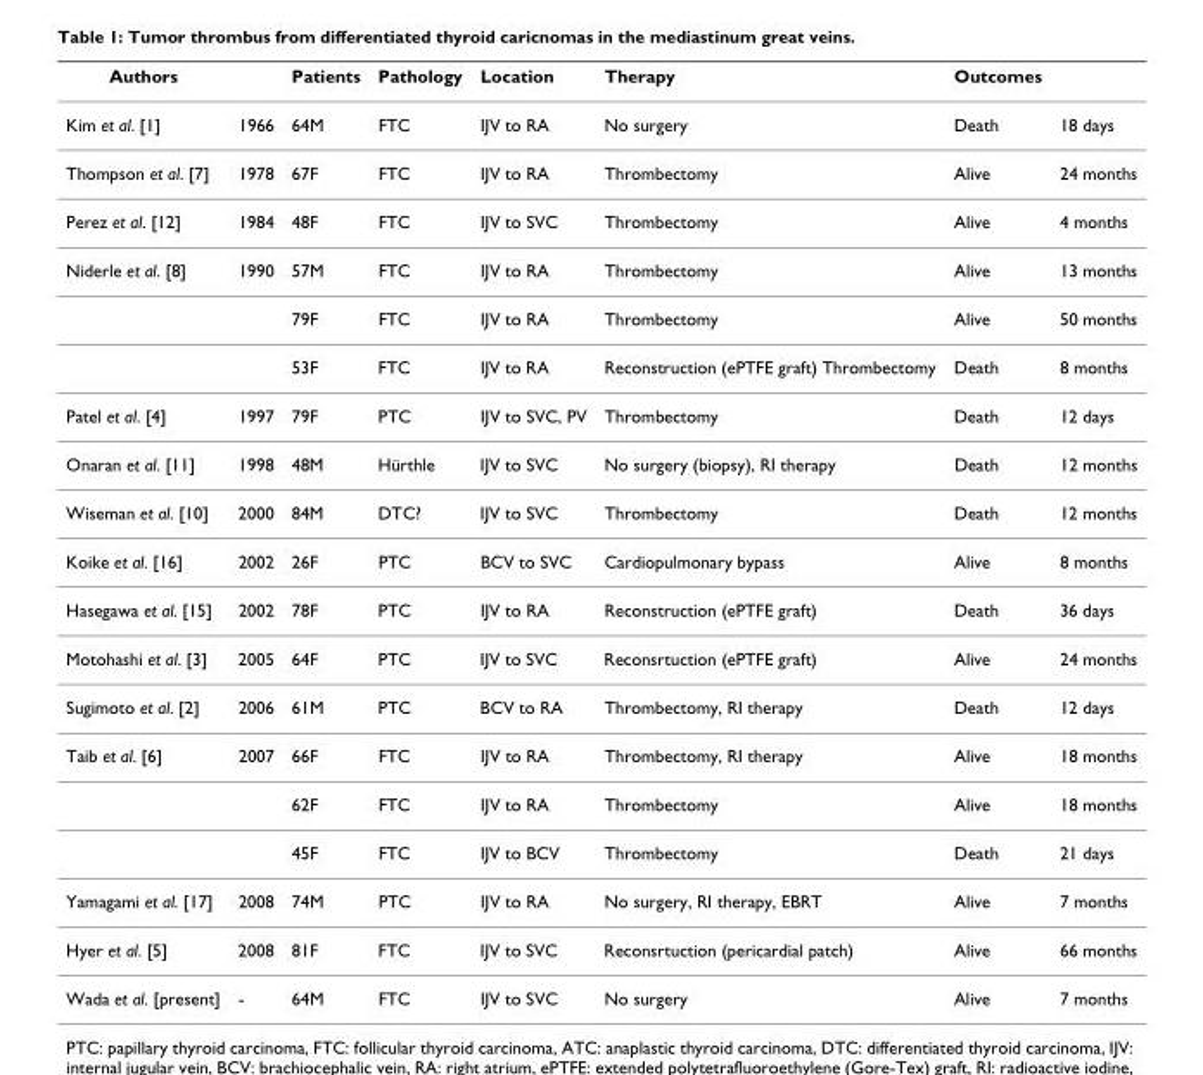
<table><thead><tr><td>Authors</td><td></td><td>Patients</td><td>Pathology</td><td>Location</td><td>Therapy</td><td>Outcomes</td><td></td></tr></thead><tbody><tr><td>Kim et al. [1]</td><td>1966</td><td>64M</td><td>FTC</td><td>IJV to RA</td><td>No surgery</td><td>Death</td><td>18 days</td></tr><tr><td>Thompson et al. [7]</td><td>1978</td><td>67F</td><td>FTC</td><td>IJV to RA</td><td>Thrombectomy</td><td>Alive</td><td>24 months</td></tr><tr><td>Perez et al. [12]</td><td>1984</td><td>48F</td><td>FTC</td><td>IJV to SVC</td><td>Thrombectomy</td><td>Alive</td><td>4 months</td></tr><tr><td rowspan="3">Niderle et al. [8]</td><td>1990</td><td>57M</td><td>FTC</td><td>IJV to RA</td><td>Thrombectomy</td><td>Alive</td><td>13 months</td></tr><tr><td></td><td>79F</td><td>FTC</td><td>IJV to RA</td><td>Thrombectomy</td><td>Alive</td><td>50 months</td></tr><tr><td></td><td>53F</td><td>FTC</td><td>IJV to RA</td><td>Reconstruction (ePTFE graft) Thrombectomy</td><td>Death</td><td>8 months</td></tr><tr><td>Patel et al. [4]</td><td>1997</td><td>79F</td><td>PTC</td><td>IJV to SVC, PV</td><td>Thrombectomy</td><td>Death</td><td>12 days</td></tr><tr><td>Onaran et al. [11]</td><td>1998</td><td>48M</td><td>Hürthle</td><td>IJV to SVC</td><td>No surgery (biopsy), RI therapy</td><td>Death</td><td>12 months</td></tr><tr><td>Wiseman et al. [10]</td><td>2000</td><td>84M</td><td>DTC?</td><td>IJV to SVC</td><td>Thrombectomy</td><td>Death</td><td>12 months</td></tr><tr><td>Koike et al. [16]</td><td>2002</td><td>26F</td><td>PTC</td><td>BCV to SVC</td><td>Cardiopulmonary bypass</td><td>Alive</td><td>8 months</td></tr><tr><td>Hasegawa et al. [15]</td><td>2002</td><td>78F</td><td>PTC</td><td>IJV to RA</td><td>Reconstruction (ePTFE graft)</td><td>Death</td><td>36 days</td></tr><tr><td>Motohashi et al. [3]</td><td>2005</td><td>64F</td><td>PTC</td><td>IJV to SVC</td><td>Reconsrtuction (ePTFE graft)</td><td>Alive</td><td>24 months</td></tr><tr><td>Sugimoto et al. [2]</td><td>2006</td><td>61M</td><td>PTC</td><td>BCV to RA</td><td>Thrombectomy, RI therapy</td><td>Death</td><td>12 days</td></tr><tr><td rowspan="3">Taib et al. [6]</td><td>2007</td><td>66F</td><td>FTC</td><td>IJV to RA</td><td>Thrombectomy, RI therapy</td><td>Alive</td><td>18 months</td></tr><tr><td></td><td>62F</td><td>FTC</td><td>IJV to RA</td><td>Thrombectomy</td><td>Alive</td><td>18 months</td></tr><tr><td></td><td>45F</td><td>FTC</td><td>IJV to BCV</td><td>Thrombectomy</td><td>Death</td><td>21 days</td></tr><tr><td>Yamagami et al. [17]</td><td>2008</td><td>74M</td><td>PTC</td><td>IJV to RA</td><td>No surgery, RI therapy, EBRT</td><td>Alive</td><td>7 months</td></tr><tr><td>Hyer et al. [5]</td><td>2008</td><td>81F</td><td>FTC</td><td>IJV to SVC</td><td>Reconsrtuction (pericardial patch)</td><td>Alive</td><td>66 months</td></tr><tr><td>Wada et al. [present]</td><td>-</td><td>64M</td><td>FTC</td><td>IJV to SVC</td><td>No surgery</td><td>Alive</td><td>7 months</td></tr></tbody></table>